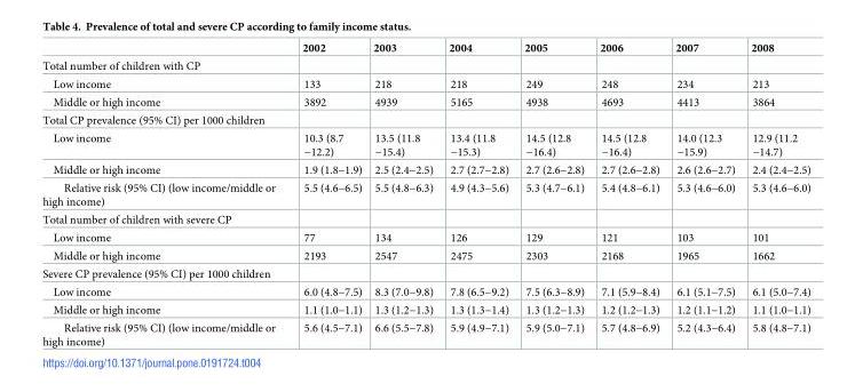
<table><thead><tr><td></td><td>2002</td><td>2003</td><td>2004</td><td>2005</td><td>2006</td><td>2007</td><td>2008</td></tr></thead><tbody><tr><td colspan="8">Total number of children with CP</td></tr><tr><td>Low income</td><td>133</td><td>218</td><td>218</td><td>249</td><td>248</td><td>234</td><td>213</td></tr><tr><td>Middle or high income</td><td>3892</td><td>4939</td><td>5165</td><td>4938</td><td>4693</td><td>4413</td><td>3864</td></tr><tr><td colspan="8">Total CP prevalence (95% CI) per 1000 children</td></tr><tr><td>Low income</td><td>10.3 (8.7 −12.2)</td><td>13.5 (11.8 −15.4)</td><td>13.4 (11.8 −15.3)</td><td>14.5 (12.8 −16.4)</td><td>14.5 (12.8 −16.4)</td><td>14.0 (12.3 −15.9)</td><td>12.9 (11.2 −14.7)</td></tr><tr><td>Middle or high income</td><td>1.9 (1.8−1.9)</td><td>2.5 (2.4−2.5)</td><td>2.7 (2.7−2.8)</td><td>2.7 (2.6−2.8)</td><td>2.7 (2.6−2.8)</td><td>2.6 (2.6−2.7)</td><td>2.4 (2.4−2.5)</td></tr><tr><td>Relative risk (95% CI) (low income/middle or high income)</td><td>5.5 (4.6−6.5)</td><td>5.5 (4.8−6.3)</td><td>4.9 (4.3−5.6)</td><td>5.3 (4.7−6.1)</td><td>5.4 (4.8−6.1)</td><td>5.3 (4.6−6.0)</td><td>5.3 (4.6−6.0)</td></tr><tr><td colspan="8">Total number of children with severe CP</td></tr><tr><td>Low income</td><td>77</td><td>134</td><td>126</td><td>129</td><td>121</td><td>103</td><td>101</td></tr><tr><td>Middle or high income</td><td>2193</td><td>2547</td><td>2475</td><td>2303</td><td>2168</td><td>1965</td><td>1662</td></tr><tr><td colspan="8">Severe CP prevalence (95% CI) per 1000 children</td></tr><tr><td>Low income</td><td>6.0 (4.8−7.5)</td><td>8.3 (7.0−9.8)</td><td>7.8 (6.5−9.2)</td><td>7.5 (6.3−8.9)</td><td>7.1 (5.9−8.4)</td><td>6.1 (5.1−7.5)</td><td>6.1 (5.0−7.4)</td></tr><tr><td>Middle or high income</td><td>1.1 (1.0−1.1)</td><td>1.3 (1.2−1.3)</td><td>1.3 (1.3−1.4)</td><td>1.3 (1.2−1.3)</td><td>1.2 (1.2−1.3)</td><td>1.2 (1.1−1.2)</td><td>1.1 (1.0−1.1)</td></tr><tr><td>Relative risk (95% CI) (low income/middle or high income)</td><td>5.6 (4.5−7.1)</td><td>6.6 (5.5−7.8)</td><td>5.9 (4.9−7.1)</td><td>5.9 (5.0−7.1)</td><td>5.7 (4.8−6.9)</td><td>5.2 (4.3−6.4)</td><td>5.8 (4.8−7.1)</td></tr></tbody></table>